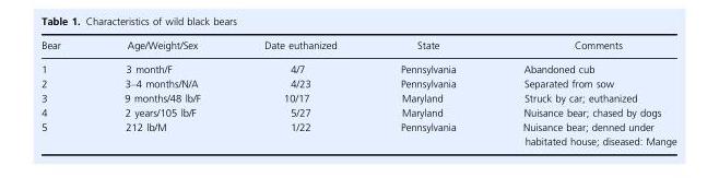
<table><thead><tr><td>Bear</td><td>Age/Weight/Sex</td><td>Date euthanized</td><td>State</td><td>Comments</td></tr></thead><tbody><tr><td>1</td><td>3 month/F</td><td>4/7</td><td>Pennsylvania</td><td>Abandoned cub</td></tr><tr><td>2</td><td>3–4 months/N/A</td><td>4/23</td><td>Pennsylvania</td><td>Separated from sow</td></tr><tr><td>3</td><td>9 months/48 lb/F</td><td>10/17</td><td>Maryland</td><td>Struck by car; euthanized</td></tr><tr><td>4</td><td>2 years/105 lb/F</td><td>5/27</td><td>Maryland</td><td>Nuisance bear; chased by dogs</td></tr><tr><td>5</td><td>212 lb/M</td><td>1/22</td><td>Pennsylvania</td><td>Nuisance bear; denned under habitated house; diseased: Mange</td></tr></tbody></table>